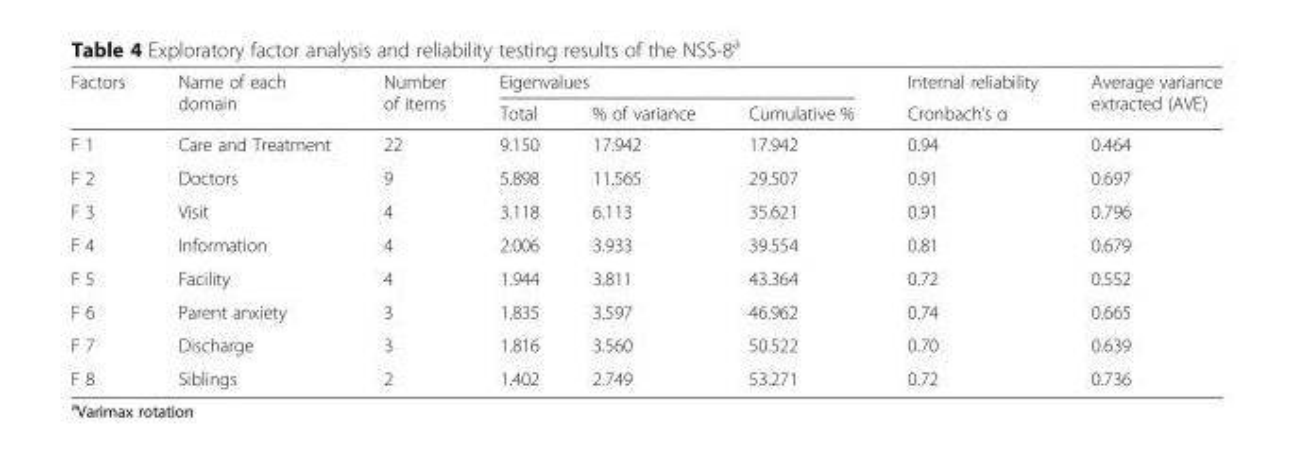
<table><thead><tr><td rowspan="2">Factors</td><td rowspan="2">Name of each domain</td><td rowspan="2">Number of items</td><td colspan="3">Eigenvalues</td><td rowspan="2">Internal reliability Cronbach’s α</td><td rowspan="2">Average variance extracted (AVE)</td></tr><tr><td>Total</td><td>% of variance</td><td>Cumulative %</td></tr></thead><tbody><tr><td>F 1</td><td>Care and Treatment</td><td>22</td><td>9.150</td><td>17.942</td><td>17.942</td><td>0.94</td><td>0.464</td></tr><tr><td>F 2</td><td>Doctors</td><td>9</td><td>5.898</td><td>11.565</td><td>29.507</td><td>0.91</td><td>0.697</td></tr><tr><td>F 3</td><td>Visit</td><td>4</td><td>3.118</td><td>6.113</td><td>35.621</td><td>0.91</td><td>0.796</td></tr><tr><td>F 4</td><td>Information</td><td>4</td><td>2.006</td><td>3.933</td><td>39.554</td><td>0.81</td><td>0.679</td></tr><tr><td>F 5</td><td>Facility</td><td>4</td><td>1.944</td><td>3.811</td><td>43.364</td><td>0.72</td><td>0.552</td></tr><tr><td>F 6</td><td>Parent anxiety</td><td>3</td><td>1.835</td><td>3.597</td><td>46.962</td><td>0.74</td><td>0.665</td></tr><tr><td>F 7</td><td>Discharge</td><td>3</td><td>1.816</td><td>3.560</td><td>50.522</td><td>0.70</td><td>0.639</td></tr><tr><td>F 8</td><td>Siblings</td><td>2</td><td>1.402</td><td>2.749</td><td>53.271</td><td>0.72</td><td>0.736</td></tr></tbody></table>